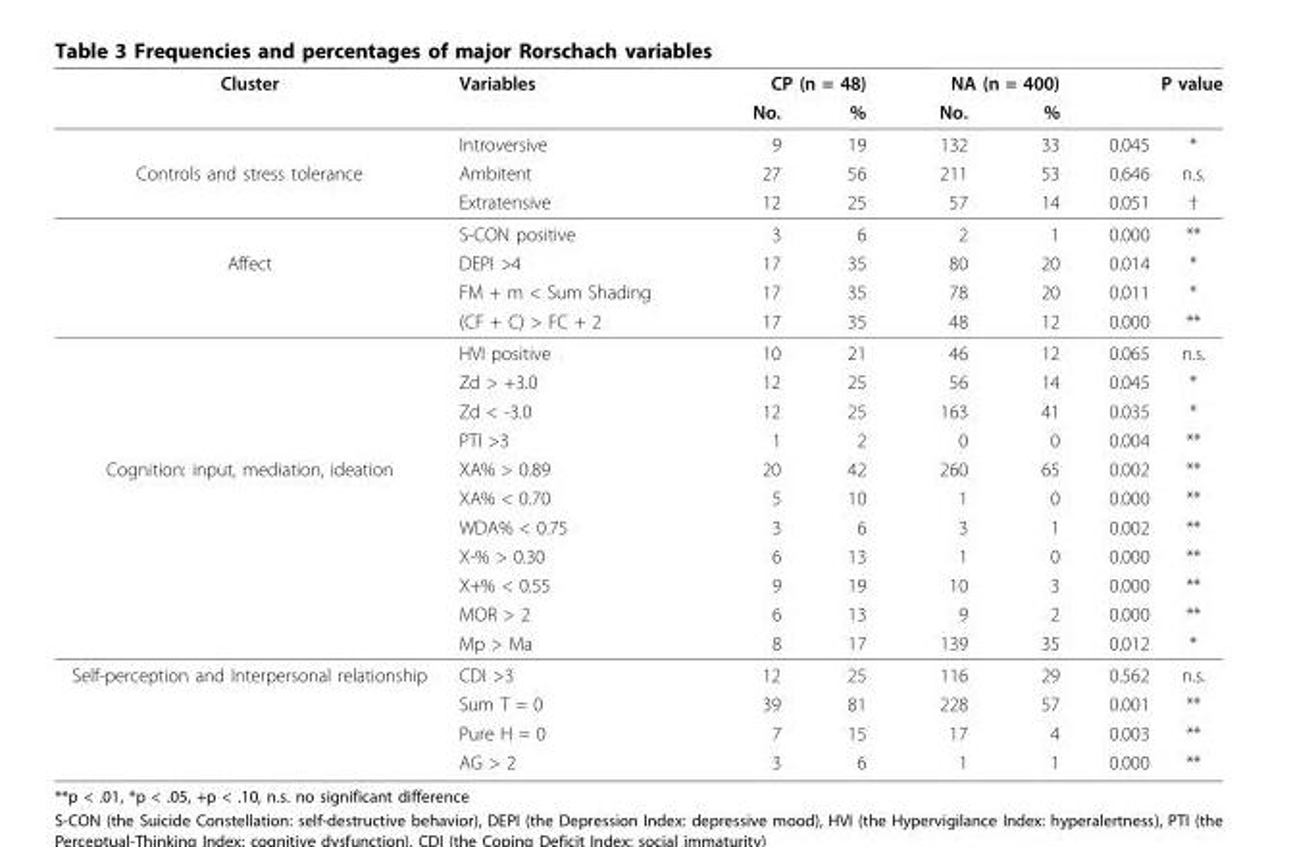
<table><thead><tr><td rowspan="2">Cluster</td><td rowspan="2">Variables</td><td colspan="2">CP (n = 48)</td><td colspan="2">NA (n = 400)</td><td colspan="2">P value</td></tr><tr><td>No.</td><td>%</td><td>No.</td><td>%</td><td></td><td></td></tr></thead><tbody><tr><td></td><td>Introversive</td><td>9</td><td>19</td><td>132</td><td>33</td><td>0.045</td><td>*</td></tr><tr><td rowspan="3">Controls and stress tolerance</td><td>Ambitent</td><td>27</td><td>56</td><td>211</td><td>53</td><td>0.646</td><td>n.s.</td></tr><tr><td>Extratensive</td><td>12</td><td>25</td><td>57</td><td>14</td><td>0.051</td><td>†</td></tr><tr><td>S-CON positive</td><td>3</td><td>6</td><td>2</td><td>1</td><td>0.000</td><td>**</td></tr><tr><td rowspan="7">Affect</td><td>DEPI &gt;4</td><td>17</td><td>35</td><td>80</td><td>20</td><td>0.014</td><td>*</td></tr><tr><td>FM + m &lt; Sum Shading</td><td>17</td><td>35</td><td>78</td><td>20</td><td>0.011</td><td>*</td></tr><tr><td>(CF + C) &gt; FC + 2</td><td>17</td><td>35</td><td>48</td><td>12</td><td>0.000</td><td>**</td></tr><tr><td>HVI positive</td><td>10</td><td>21</td><td>46</td><td>12</td><td>0.065</td><td>n.s.</td></tr><tr><td>Zd &gt; +3.0</td><td>12</td><td>25</td><td>56</td><td>14</td><td>0.045</td><td>*</td></tr><tr><td>Zd &lt; -3.0</td><td>12</td><td>25</td><td>163</td><td>41</td><td>0.035</td><td>*</td></tr><tr><td>PTI &gt;3</td><td>1</td><td>2</td><td>0</td><td>0</td><td>0.004</td><td>**</td></tr><tr><td rowspan="7">Cognition: input, mediation, ideation</td><td>XA% &gt; 0.89</td><td>20</td><td>42</td><td>260</td><td>65</td><td>0.002</td><td>**</td></tr><tr><td>XA% &lt; 0.70</td><td>5</td><td>10</td><td>1</td><td>0</td><td>0.000</td><td>**</td></tr><tr><td>WDA% &lt; 0.75</td><td>3</td><td>6</td><td>3</td><td>1</td><td>0.002</td><td>**</td></tr><tr><td>X-% &gt; 0.30</td><td>6</td><td>13</td><td>1</td><td>0</td><td>0.000</td><td>**</td></tr><tr><td>X+% &lt; 0.55</td><td>9</td><td>19</td><td>10</td><td>3</td><td>0.000</td><td>**</td></tr><tr><td>MOR &gt; 2</td><td>6</td><td>13</td><td>9</td><td>2</td><td>0.000</td><td>**</td></tr><tr><td>Mp &gt; Ma</td><td>8</td><td>17</td><td>139</td><td>35</td><td>0.012</td><td>*</td></tr><tr><td rowspan="4">Self-perception and Interpersonal relationship</td><td>CDI &gt;3</td><td>12</td><td>25</td><td>116</td><td>29</td><td>0.562</td><td>n.s.</td></tr><tr><td>Sum T = 0</td><td>39</td><td>81</td><td>228</td><td>57</td><td>0.001</td><td>**</td></tr><tr><td>Pure H = 0</td><td>7</td><td>15</td><td>17</td><td>4</td><td>0.003</td><td>**</td></tr><tr><td>AG &gt; 2</td><td>3</td><td>6</td><td>1</td><td>1</td><td>0.000</td><td>**</td></tr></tbody></table>